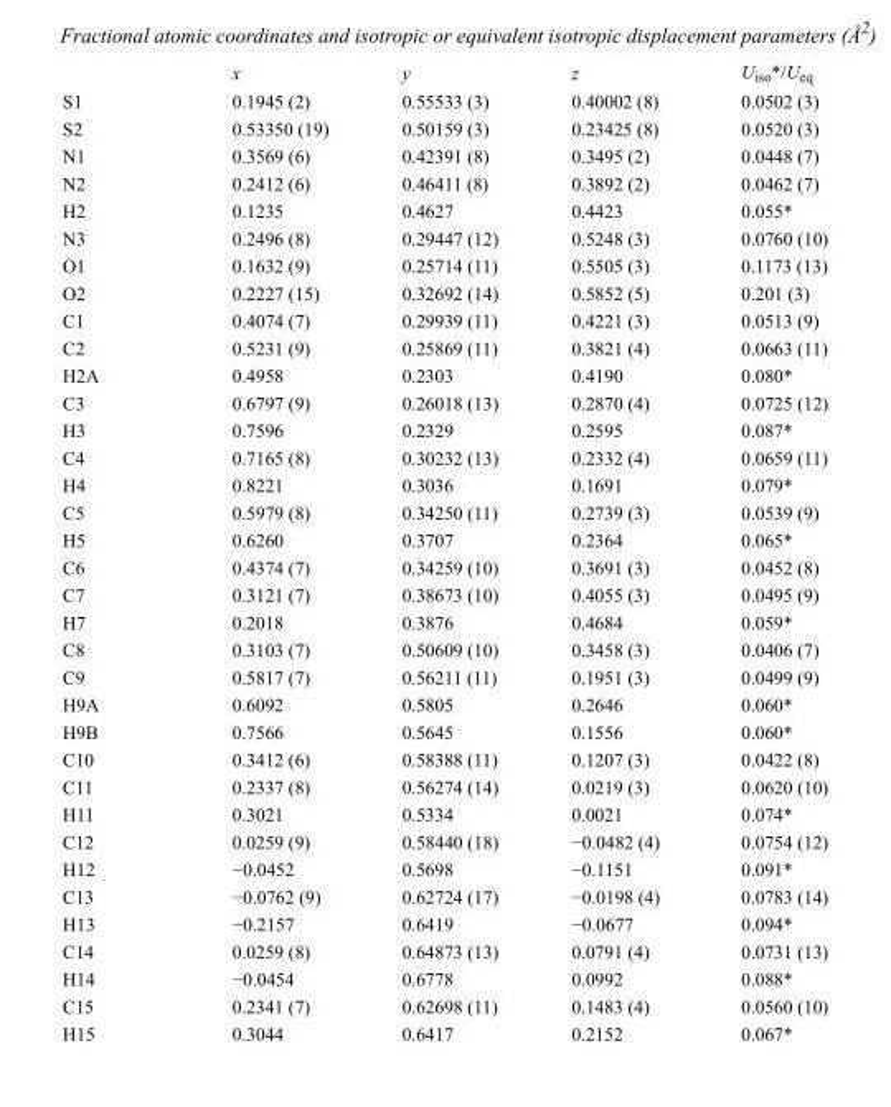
<table><thead><tr><td></td><td>x</td><td>y</td><td>z</td><td>U<sub>iso</sub>*/U<sub>eq</sub></td></tr></thead><tbody><tr><td>S1</td><td>0.1945 (2)</td><td>0.55533 (3)</td><td>0.40002 (8)</td><td>0.0502 (3)</td></tr><tr><td>S2</td><td>0.53350 (19)</td><td>0.50159 (3)</td><td>0.23425 (8)</td><td>0.0520 (3)</td></tr><tr><td>N1</td><td>0.3569 (6)</td><td>0.42391 (8)</td><td>0.3495 (2)</td><td>0.0448 (7)</td></tr><tr><td>N2</td><td>0.2412 (6)</td><td>0.46411 (8)</td><td>0.3892 (2)</td><td>0.0462 (7)</td></tr><tr><td>H2</td><td>0.1235</td><td>0.4627</td><td>0.4423</td><td>0.055*</td></tr><tr><td>N3</td><td>0.2496 (8)</td><td>0.29447 (12)</td><td>0.5248 (3)</td><td>0.0760 (10)</td></tr><tr><td>O1</td><td>0.1632 (9)</td><td>0.25714 (11)</td><td>0.5505 (3)</td><td>0.1173 (13)</td></tr><tr><td>O2</td><td>0.2227 (15)</td><td>0.32692 (14)</td><td>0.5852 (5)</td><td>0.201 (3)</td></tr><tr><td>C1</td><td>0.4074 (7)</td><td>0.29939 (11)</td><td>0.4221 (3)</td><td>0.0513 (9)</td></tr><tr><td>C2</td><td>0.5231 (9)</td><td>0.25869 (11)</td><td>0.3821 (4)</td><td>0.0663 (11)</td></tr><tr><td>H2A</td><td>0.4958</td><td>0.2303</td><td>0.4190</td><td>0.080*</td></tr><tr><td>C3</td><td>0.6797 (9)</td><td>0.26018 (13)</td><td>0.2870 (4)</td><td>0.0725 (12)</td></tr><tr><td>H3</td><td>0.7596</td><td>0.2329</td><td>0.2595</td><td>0.087*</td></tr><tr><td>C4</td><td>0.7165 (8)</td><td>0.30232 (13)</td><td>0.2332 (4)</td><td>0.0659 (11)</td></tr><tr><td>H4</td><td>0.8221</td><td>0.3036</td><td>0.1691</td><td>0.079*</td></tr><tr><td>C5</td><td>0.5979 (8)</td><td>0.34250 (11)</td><td>0.2739 (3)</td><td>0.0539 (9)</td></tr><tr><td>H5</td><td>0.6260</td><td>0.3707</td><td>0.2364</td><td>0.065*</td></tr><tr><td>C6</td><td>0.4374 (7)</td><td>0.34259 (10)</td><td>0.3691 (3)</td><td>0.0452 (8)</td></tr><tr><td>C7</td><td>0.3121 (7)</td><td>0.38673 (10)</td><td>0.4055 (3)</td><td>0.0495 (9)</td></tr><tr><td>H7</td><td>0.2018</td><td>0.3876</td><td>0.4684</td><td>0.059*</td></tr><tr><td>C8</td><td>0.3103 (7)</td><td>0.50609 (10)</td><td>0.3458 (3)</td><td>0.0406 (7)</td></tr><tr><td>C9</td><td>0.5817 (7)</td><td>0.56211 (11)</td><td>0.1951 (3)</td><td>0.0499 (9)</td></tr><tr><td>H9A</td><td>0.6092</td><td>0.5805</td><td>0.2646</td><td>0.060*</td></tr><tr><td>H9B</td><td>0.7566</td><td>0.5645</td><td>0.1556</td><td>0.060*</td></tr><tr><td>C10</td><td>0.3412 (6)</td><td>0.58388 (11)</td><td>0.1207 (3)</td><td>0.0422 (8)</td></tr><tr><td>C11</td><td>0.2337 (8)</td><td>0.56274 (14)</td><td>0.0219 (3)</td><td>0.0620 (10)</td></tr><tr><td>H11</td><td>0.3021</td><td>0.5334</td><td>0.0021</td><td>0.074*</td></tr><tr><td>C12</td><td>0.0259 (9)</td><td>0.58440 (18)</td><td>−0.0482 (4)</td><td>0.0754 (12)</td></tr><tr><td>H12</td><td>−0.0452</td><td>0.5698</td><td>−0.1151</td><td>0.091*</td></tr><tr><td>C13</td><td>−0.0762 (9)</td><td>0.62724 (17)</td><td>−0.0198 (4)</td><td>0.0783 (14)</td></tr><tr><td>H13</td><td>−0.2157</td><td>0.6419</td><td>−0.0677</td><td>0.094*</td></tr><tr><td>C14</td><td>0.0259 (8)</td><td>0.64873 (13)</td><td>0.0791 (4)</td><td>0.0731 (13)</td></tr><tr><td>H14</td><td>−0.0454</td><td>0.6778</td><td>0.0992</td><td>0.088*</td></tr><tr><td>C15</td><td>0.2341 (7)</td><td>0.62698 (11)</td><td>0.1483 (4)</td><td>0.0560 (10)</td></tr><tr><td>H15</td><td>0.3044</td><td>0.6417</td><td>0.2152</td><td>0.067*</td></tr></tbody></table>